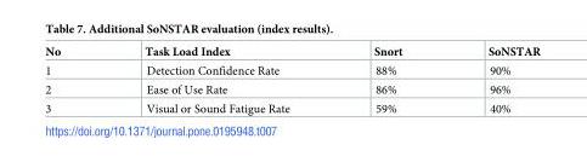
<table><thead><tr><td>No</td><td>Task Load Index</td><td>Snort</td><td>SoNSTAR</td></tr></thead><tbody><tr><td>1</td><td>Detection Confidence Rate</td><td>88%</td><td>90%</td></tr><tr><td>2</td><td>Ease of Use Rate</td><td>86%</td><td>96%</td></tr><tr><td>3</td><td>Visual or Sound Fatigue Rate</td><td>59%</td><td>40%</td></tr></tbody></table>